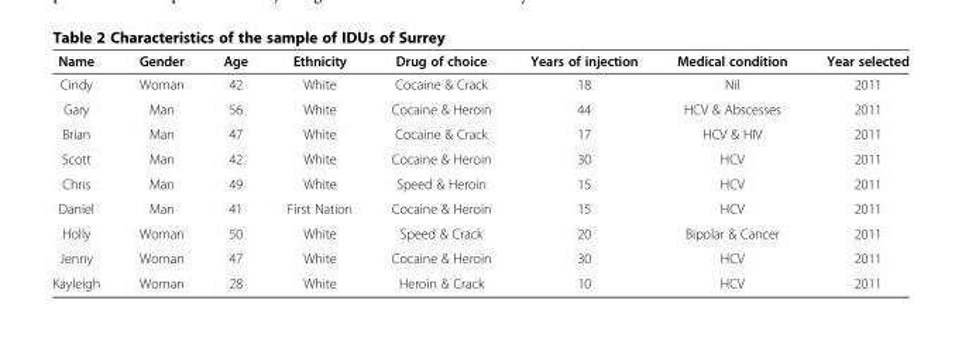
<table><thead><tr><td>Name</td><td>Gender</td><td>Age</td><td>Ethnicity</td><td>Drug of choice</td><td>Years of injection</td><td>Medical condition</td><td>Year selected</td></tr></thead><tbody><tr><td>Cindy</td><td>Woman</td><td>42</td><td>White</td><td>Cocaine &amp; Crack</td><td>18</td><td>Nil</td><td>2011</td></tr><tr><td>Gary</td><td>Man</td><td>56</td><td>White</td><td>Cocaine &amp; Heroin</td><td>44</td><td>HCV &amp; Abscesses</td><td>2011</td></tr><tr><td>Brian</td><td>Man</td><td>47</td><td>White</td><td>Cocaine &amp; Crack</td><td>17</td><td>HCV &amp; HIV</td><td>2011</td></tr><tr><td>Scott</td><td>Man</td><td>42</td><td>White</td><td>Cocaine &amp; Heroin</td><td>30</td><td>HCV</td><td>2011</td></tr><tr><td>Chris</td><td>Man</td><td>49</td><td>White</td><td>Speed &amp; Heroin</td><td>15</td><td>HCV</td><td>2011</td></tr><tr><td>Daniel</td><td>Man</td><td>41</td><td>First Nation</td><td>Cocaine &amp; Heroin</td><td>15</td><td>HCV</td><td>2011</td></tr><tr><td>Holly</td><td>Woman</td><td>50</td><td>White</td><td>Speed &amp; Crack</td><td>20</td><td>Bipolar &amp; Cancer</td><td>2011</td></tr><tr><td>Jenny</td><td>Woman</td><td>47</td><td>White</td><td>Cocaine &amp; Heroin</td><td>30</td><td>HCV</td><td>2011</td></tr><tr><td>Kayleigh</td><td>Woman</td><td>28</td><td>White</td><td>Heroin &amp; Crack</td><td>10</td><td>HCV</td><td>2011</td></tr></tbody></table>